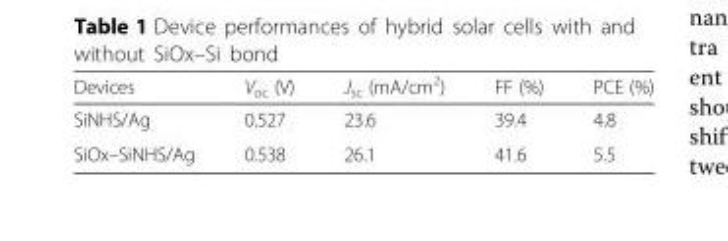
<table><thead><tr><td>Devices</td><td>V<sub>oc</sub> (V)</td><td>J<sub>sc</sub> (mA/cm<sup>2</sup>)</td><td>FF (%)</td><td>PCE (%)</td></tr></thead><tbody><tr><td>SiNHS/Ag</td><td>0.527</td><td>23.6</td><td>39.4</td><td>4.8</td></tr><tr><td>SiOx–SiNHS/Ag</td><td>0.538</td><td>26.1</td><td>41.6</td><td>5.5</td></tr></tbody></table>